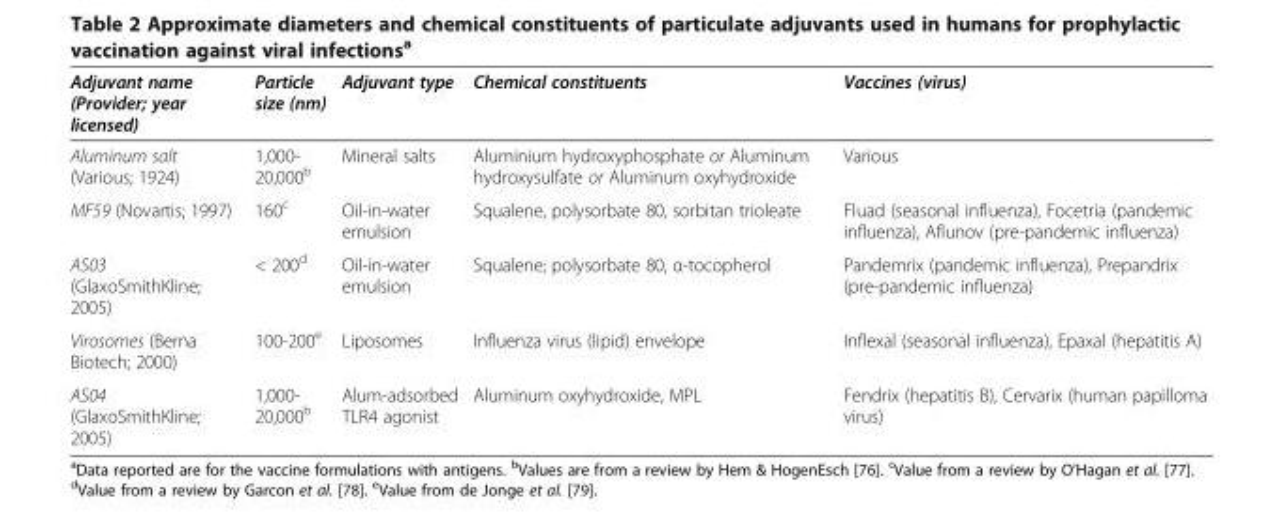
<table><thead><tr><td>Adjuvant name (Provider; year licensed)</td><td>Particle size (nm)</td><td>Adjuvant type</td><td>Chemical constituents</td><td>Vaccines (virus)</td></tr></thead><tbody><tr><td>Aluminum salt (Various; 1924)</td><td>1,000- 20,000<sup>b</sup></td><td>Mineral salts</td><td>Aluminium hydroxyphosphate or Aluminum hydroxysulfate or Aluminum oxyhydroxide</td><td>Various</td></tr><tr><td>MF59 (Novartis; 1997)</td><td>160<sup>c</sup></td><td>Oil-in-water emulsion</td><td>Squalene, polysorbate 80, sorbitan trioleate</td><td>Fluad (seasonal influenza), Focetria (pandemic influenza), Aflunov (pre-pandemic influenza)</td></tr><tr><td>AS03 (GlaxoSmithKline; 2005)</td><td>&lt; 200<sup>d</sup></td><td>Oil-in-water emulsion</td><td>Squalene; polysorbate 80, α-tocopherol</td><td>Pandemrix (pandemic influenza), Prepandrix (pre-pandemic influenza)</td></tr><tr><td>Virosomes (Berna Biotech; 2000)</td><td>100-200<sup>e</sup></td><td>Liposomes</td><td>Influenza virus (lipid) envelope</td><td>Inflexal (seasonal influenza), Epaxal (hepatitis A)</td></tr><tr><td>AS04 (GlaxoSmithKline; 2005)</td><td>1,000- 20,000<sup>b</sup></td><td>Alum-adsorbed TLR4 agonist</td><td>Aluminum oxyhydroxide, MPL</td><td>Fendrix (hepatitis B), Cervarix (human papilloma virus)</td></tr></tbody></table>